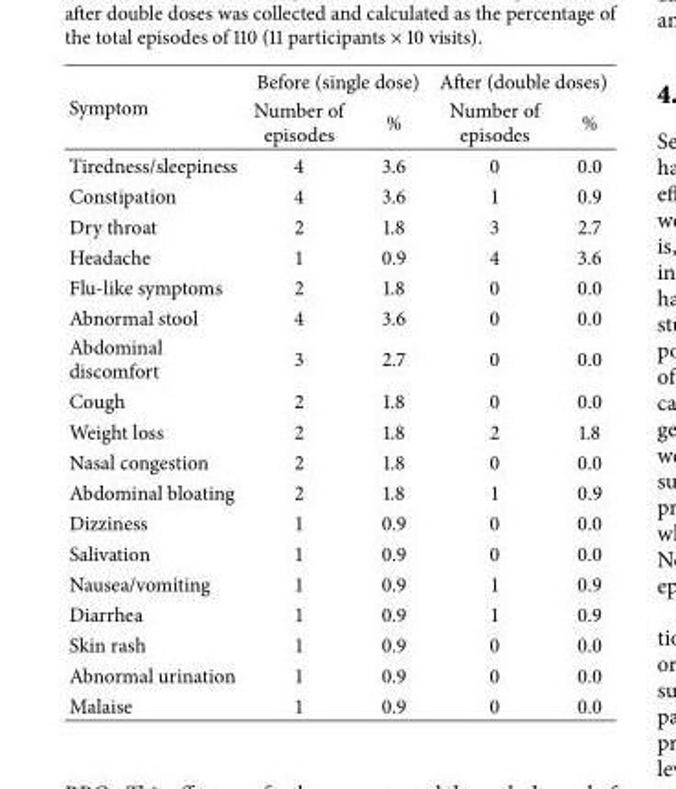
<table><thead><tr><td rowspan="2">Symptom</td><td colspan="2">Before (single dose)</td><td colspan="2">After (double doses)</td></tr><tr><td>Number of episodes</td><td>%</td><td>Number of episodes</td><td>%</td></tr></thead><tbody><tr><td>Tiredness/sleepiness</td><td>4</td><td>3.6</td><td>0</td><td>0.0</td></tr><tr><td>Constipation</td><td>4</td><td>3.6</td><td>1</td><td>0.9</td></tr><tr><td>Dry throat</td><td>2</td><td>1.8</td><td>3</td><td>2.7</td></tr><tr><td>Headache</td><td>1</td><td>0.9</td><td>4</td><td>3.6</td></tr><tr><td>Flu-like symptoms</td><td>2</td><td>1.8</td><td>0</td><td>0.0</td></tr><tr><td>Abnormal stool</td><td>4</td><td>3.6</td><td>0</td><td>0.0</td></tr><tr><td>Abdominal discomfort</td><td>3</td><td>2.7</td><td>0</td><td>0.0</td></tr><tr><td>Cough</td><td>2</td><td>1.8</td><td>0</td><td>0.0</td></tr><tr><td>Weight loss</td><td>2</td><td>1.8</td><td>2</td><td>1.8</td></tr><tr><td>Nasal congestion</td><td>2</td><td>1.8</td><td>0</td><td>0.0</td></tr><tr><td>Abdominal bloating</td><td>2</td><td>1.8</td><td>1</td><td>0.9</td></tr><tr><td>Dizziness</td><td>1</td><td>0.9</td><td>0</td><td>0.0</td></tr><tr><td>Salivation</td><td>1</td><td>0.9</td><td>0</td><td>0.0</td></tr><tr><td>Nausea/vomiting</td><td>1</td><td>0.9</td><td>1</td><td>0.9</td></tr><tr><td>Diarrhea</td><td>1</td><td>0.9</td><td>1</td><td>0.9</td></tr><tr><td>Skin rash</td><td>1</td><td>0.9</td><td>0</td><td>0.0</td></tr><tr><td>Abnormal urination</td><td>1</td><td>0.9</td><td>0</td><td>0.0</td></tr><tr><td>Malaise</td><td>1</td><td>0.9</td><td>0</td><td>0.0</td></tr></tbody></table>